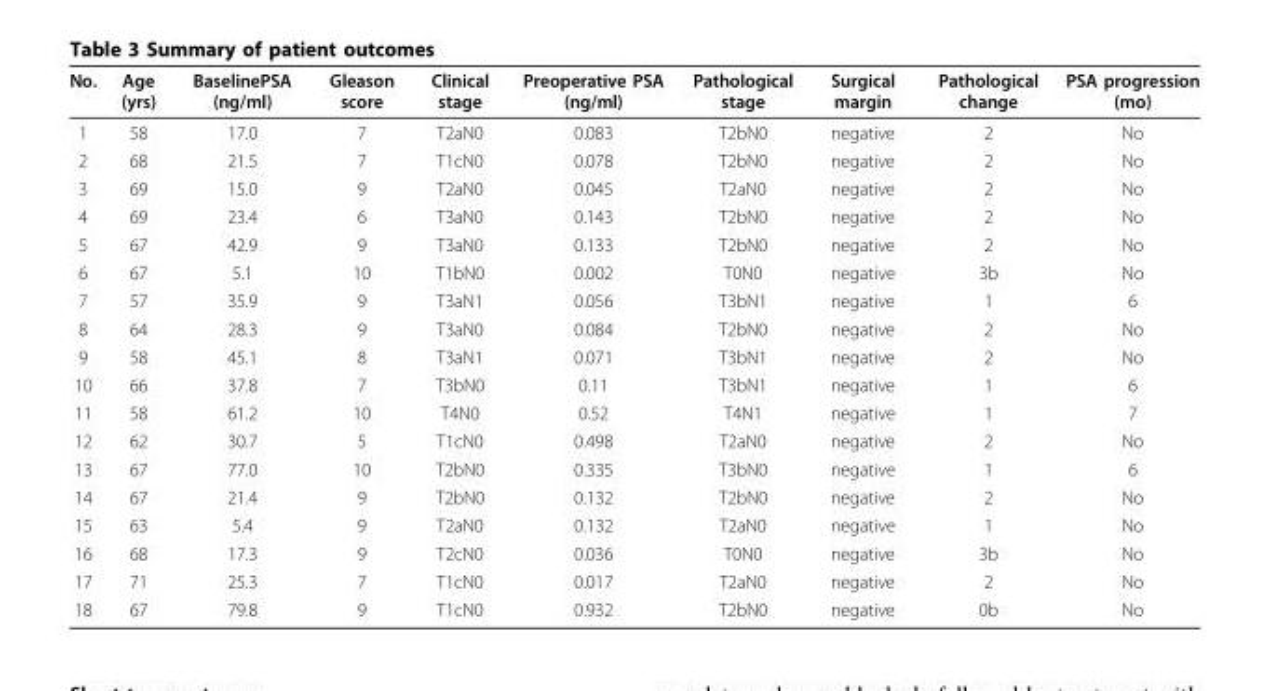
<table><thead><tr><td>No.</td><td>Age (yrs)</td><td>BaselinePSA (ng/ml)</td><td>Gleason score</td><td>Clinical stage</td><td>Preoperative PSA (ng/ml)</td><td>Pathological stage</td><td>Surgical margin</td><td>Pathological change</td><td>PSA progression (mo)</td></tr></thead><tbody><tr><td>1</td><td>58</td><td>17.0</td><td>7</td><td>T2aN0</td><td>0.083</td><td>T2bN0</td><td>negative</td><td>2</td><td>No</td></tr><tr><td>2</td><td>68</td><td>21.5</td><td>7</td><td>T1cN0</td><td>0.078</td><td>T2bN0</td><td>negative</td><td>2</td><td>No</td></tr><tr><td>3</td><td>69</td><td>15.0</td><td>9</td><td>T2aN0</td><td>0.045</td><td>T2aN0</td><td>negative</td><td>2</td><td>No</td></tr><tr><td>4</td><td>69</td><td>23.4</td><td>6</td><td>T3aN0</td><td>0.143</td><td>T2bN0</td><td>negative</td><td>2</td><td>No</td></tr><tr><td>5</td><td>67</td><td>42.9</td><td>9</td><td>T3aN0</td><td>0.133</td><td>T2bN0</td><td>negative</td><td>2</td><td>No</td></tr><tr><td>6</td><td>67</td><td>5.1</td><td>10</td><td>T1bN0</td><td>0.002</td><td>T0N0</td><td>negative</td><td>3b</td><td>No</td></tr><tr><td>7</td><td>57</td><td>35.9</td><td>9</td><td>T3aN1</td><td>0.056</td><td>T3bN1</td><td>negative</td><td>1</td><td>6</td></tr><tr><td>8</td><td>64</td><td>28.3</td><td>9</td><td>T3aN0</td><td>0.084</td><td>T2bN0</td><td>negative</td><td>2</td><td>No</td></tr><tr><td>9</td><td>58</td><td>45.1</td><td>8</td><td>T3aN1</td><td>0.071</td><td>T3bN1</td><td>negative</td><td>2</td><td>No</td></tr><tr><td>10</td><td>66</td><td>37.8</td><td>7</td><td>T3bN0</td><td>0.11</td><td>T3bN1</td><td>negative</td><td>1</td><td>6</td></tr><tr><td>11</td><td>58</td><td>61.2</td><td>10</td><td>T4N0</td><td>0.52</td><td>T4N1</td><td>negative</td><td>1</td><td>7</td></tr><tr><td>12</td><td>62</td><td>30.7</td><td>5</td><td>T1cN0</td><td>0.498</td><td>T2aN0</td><td>negative</td><td>2</td><td>No</td></tr><tr><td>13</td><td>67</td><td>77.0</td><td>10</td><td>T2bN0</td><td>0.335</td><td>T3bN0</td><td>negative</td><td>1</td><td>6</td></tr><tr><td>14</td><td>67</td><td>21.4</td><td>9</td><td>T2bN0</td><td>0.132</td><td>T2bN0</td><td>negative</td><td>2</td><td>No</td></tr><tr><td>15</td><td>63</td><td>5.4</td><td>9</td><td>T2aN0</td><td>0.132</td><td>T2aN0</td><td>negative</td><td>1</td><td>No</td></tr><tr><td>16</td><td>68</td><td>17.3</td><td>9</td><td>T2cN0</td><td>0.036</td><td>T0N0</td><td>negative</td><td>3b</td><td>No</td></tr><tr><td>17</td><td>71</td><td>25.3</td><td>7</td><td>T1cN0</td><td>0.017</td><td>T2aN0</td><td>negative</td><td>2</td><td>No</td></tr><tr><td>18</td><td>67</td><td>79.8</td><td>9</td><td>T1cN0</td><td>0.932</td><td>T2bN0</td><td>negative</td><td>0b</td><td>No</td></tr></tbody></table>